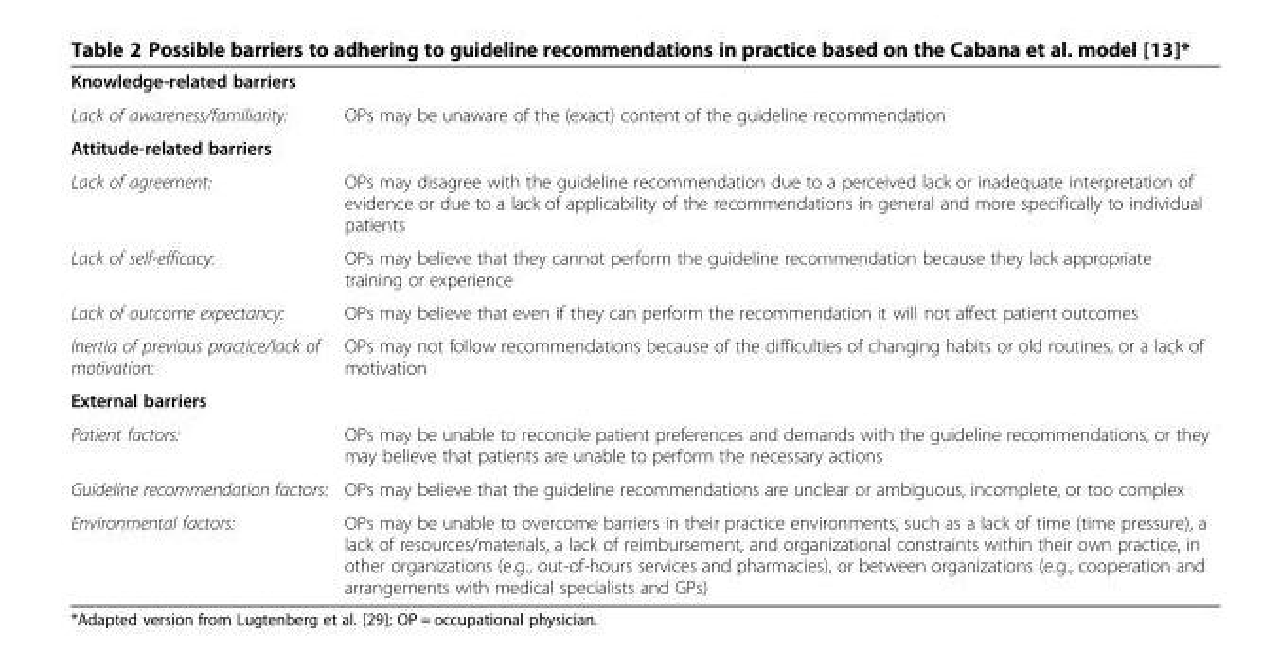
<table><tbody><tr><td colspan="2">Knowledge-related barriers</td></tr><tr><td>Lack of awareness/familiarity:</td><td>OPs may be unaware of the (exact) content of the guideline recommendation</td></tr><tr><td colspan="2">Attitude-related barriers</td></tr><tr><td>Lack of agreement:</td><td>OPs may disagree with the guideline recommendation due to a perceived lack or inadequate interpretation of evidence or due to a lack of applicability of the recommendations in general and more specifically to individual patients</td></tr><tr><td>Lack of self-efficacy:</td><td>OPs may believe that they cannot perform the guideline recommendation because they lack appropriate training or experience</td></tr><tr><td>Lack of outcome expectancy:</td><td>OPs may believe that even if they can perform the recommendation it will not affect patient outcomes</td></tr><tr><td>Inertia of previous practice/lack of motivation:</td><td>OPs may not follow recommendations because of the difficulties of changing habits or old routines, or a lack of motivation</td></tr><tr><td colspan="2">External barriers</td></tr><tr><td>Patient factors:</td><td>OPs may be unable to reconcile patient preferences and demands with the guideline recommendations, or they may believe that patients are unable to perform the necessary actions</td></tr><tr><td>Guideline recommendation factors:</td><td>OPs may believe that the guideline recommendations are unclear or ambiguous, incomplete, or too complex</td></tr><tr><td>Environmental factors:</td><td>OPs may be unable to overcome barriers in their practice environments, such as a lack of time (time pressure), a lack of resources/materials, a lack of reimbursement, and organizational constraints within their own practice, in other organizations (e.g., out-of-hours services and pharmacies), or between organizations (e.g., cooperation and arrangements with medical specialists and GPs)</td></tr></tbody></table>